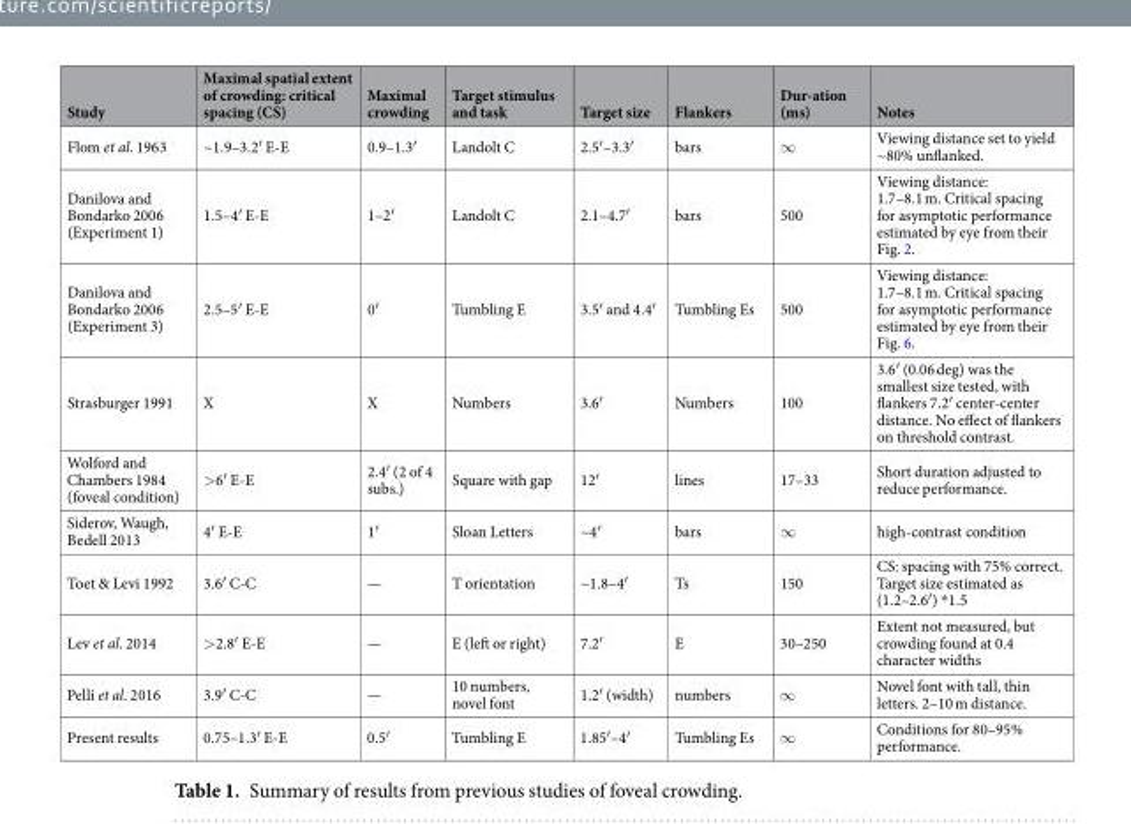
<table><thead><tr><td>Study</td><td>Maximal spatial extent of crowding: critical spacing (CS)</td><td>Maximal crowding</td><td>Target stimulus and task</td><td>Target size</td><td>Flankers</td><td>Dur-ation (ms)</td><td>Notes</td></tr></thead><tbody><tr><td>Flom et al. 1963</td><td>~1.9–3.2′ E-E</td><td>0.9–1.3′</td><td>Landolt C</td><td>2.5′–3.3′</td><td>bars</td><td>∞</td><td>Viewing distance set to yield ~80% unflanked.</td></tr><tr><td>Danilova and Bondarko 2006 (Experiment 1)</td><td>1.5–4′ E-E</td><td>1–2′</td><td>Landolt C</td><td>2.1–4.7′</td><td>bars</td><td>500</td><td>Viewing distance: 1.7–8.1 m. Critical spacing for asymptotic performance estimated by eye from their Fig. 2.</td></tr><tr><td>Danilova and Bondarko 2006 (Experiment 3)</td><td>2.5–5′ E-E</td><td>0′</td><td>Tumbling E</td><td>3.5′ and 4.4′</td><td>Tumbling Es</td><td>500</td><td>Viewing distance: 1.7–8.1 m. Critical spacing for asymptotic performance estimated by eye from their Fig. 6.</td></tr><tr><td>Strasburger 1991</td><td>X</td><td>X</td><td>Numbers</td><td>3.6′</td><td>Numbers</td><td>100</td><td>3.6′ (0.06 deg) was the smallest size tested, with flankers 7.2′ center-center distance. No effect of flankers on threshold contrast.</td></tr><tr><td>Wolford and Chambers 1984 (foveal condition)</td><td>&gt;6′ E-E</td><td>2.4′ (2 of 4 subs.)</td><td>Square with gap</td><td>12′</td><td>lines</td><td>17–33</td><td>Short duration adjusted to reduce performance.</td></tr><tr><td>Siderov, Waugh, Bedell 2013</td><td>4′ E-E</td><td>1′</td><td>Sloan Letters</td><td>~4′</td><td>bars</td><td>∞</td><td>high-contrast condition</td></tr><tr><td>Toet &amp; Levi 1992</td><td>3.6′ C-C</td><td>—</td><td>T orientation</td><td>~1.8–4′</td><td>Ts</td><td>150</td><td>CS: spacing with 75% correct. Target size estimated as (1.2–2.6′) *1.5</td></tr><tr><td>Lev et al. 2014</td><td>&gt;2.8′ E-E</td><td>—</td><td>E (left or right)</td><td>7.2′</td><td>E</td><td>30–250</td><td>Extent not measured, but crowding found at 0.4 character widths</td></tr><tr><td>Pelli et al. 2016</td><td>3.9′ C-C</td><td>—</td><td>10 numbers, novel font</td><td>1.2′ (width)</td><td>numbers</td><td>∞</td><td>Novel font with tall, thin letters. 2–10 m distance.</td></tr><tr><td>Present results</td><td>0.75–1.3′ E-E</td><td>0.5′</td><td>Tumbling E</td><td>1.85′–4′</td><td>Tumbling Es</td><td>∞</td><td>Conditions for 80–95% performance.</td></tr></tbody></table>